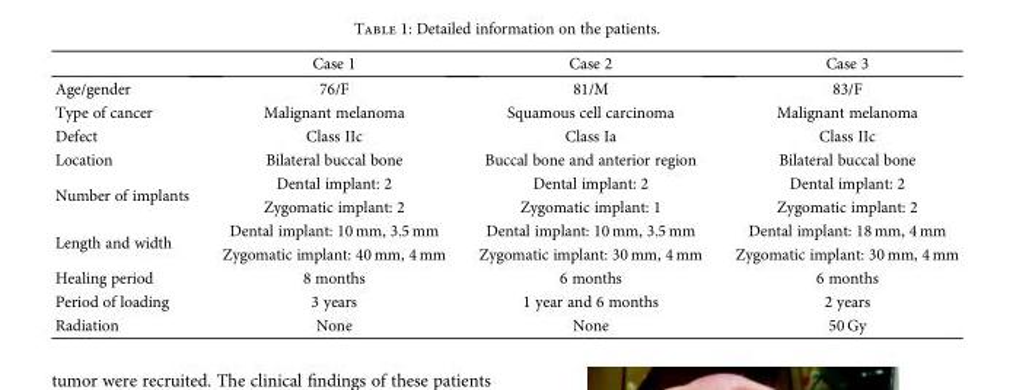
<table><thead><tr><td></td><td>Case 1</td><td>Case 2</td><td>Case 3</td></tr></thead><tbody><tr><td>Age/gender</td><td>76/F</td><td>81/M</td><td>83/F</td></tr><tr><td>Type of cancer</td><td>Malignant melanoma</td><td>Squamous cell carcinoma</td><td>Malignant melanoma</td></tr><tr><td>Defect</td><td>Class IIc</td><td>Class Ia</td><td>Class IIc</td></tr><tr><td>Location</td><td>Bilateral buccal bone</td><td>Buccal bone and anterior region</td><td>Bilateral buccal bone</td></tr><tr><td rowspan="2">Number of implants</td><td>Dental implant: 2</td><td>Dental implant: 2</td><td>Dental implant: 2</td></tr><tr><td>Zygomatic implant: 2</td><td>Zygomatic implant: 1</td><td>Zygomatic implant: 2</td></tr><tr><td rowspan="2">Length and width</td><td>Dental implant: 10 mm, 3.5 mm</td><td>Dental implant: 10 mm, 3.5 mm</td><td>Dental implant: 18 mm, 4 mm</td></tr><tr><td>Zygomatic implant: 40 mm, 4 mm</td><td>Zygomatic implant: 30 mm, 4 mm</td><td>Zygomatic implant: 30 mm, 4 mm</td></tr><tr><td>Healing period</td><td>8 months</td><td>6 months</td><td>6 months</td></tr><tr><td>Period of loading</td><td>3 years</td><td>1 year and 6 months</td><td>2 years</td></tr><tr><td>Radiation</td><td>None</td><td>None</td><td>50 Gy</td></tr></tbody></table>